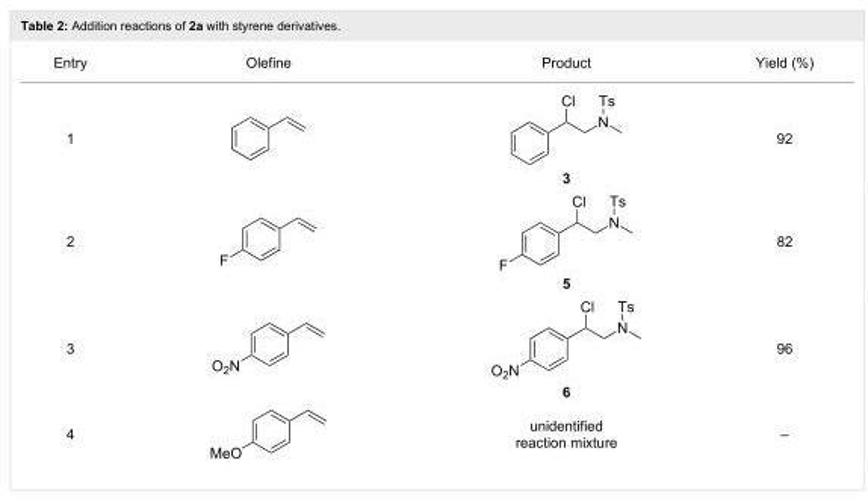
<table><tbody><tr><td>Entry</td><td>Olefine</td><td>Product</td><td>Yield (%)</td></tr><tr><td>1</td><td></td><td>3</td><td>92</td></tr><tr><td>2</td><td></td><td>5</td><td>82</td></tr><tr><td>3</td><td></td><td>6</td><td>96</td></tr><tr><td>4</td><td></td><td>unidentified reaction mixture</td><td>–</td></tr></tbody></table>